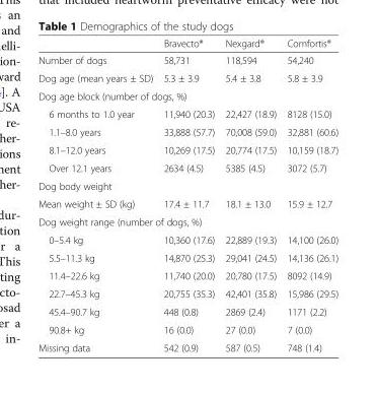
<table><thead><tr><td></td><td>Bravecto®</td><td>Nexgard®</td><td>Comfortis®</td></tr></thead><tbody><tr><td>Number of dogs</td><td>58,731</td><td>118,594</td><td>54,240</td></tr><tr><td>Dog age (mean years ± SD)</td><td>5.3 ± 3.9</td><td>5.4 ± 3.8</td><td>5.8 ± 3.9</td></tr><tr><td colspan="4">Dog age block (number of dogs, %)</td></tr><tr><td>6 months to 1.0 year</td><td>11,940 (20.3)</td><td>22,427 (18.9)</td><td>8128 (15.0)</td></tr><tr><td>1.1–8.0 years</td><td>33,888 (57.7)</td><td>70,008 (59.0)</td><td>32,881 (60.6)</td></tr><tr><td>8.1–12.0 years</td><td>10,269 (17.5)</td><td>20,774 (17.5)</td><td>10,159 (18.7)</td></tr><tr><td>Over 12.1 years</td><td>2634 (4.5)</td><td>5385 (4.5)</td><td>3072 (5.7)</td></tr><tr><td colspan="4">Dog body weight</td></tr><tr><td>Mean weight ± SD (kg)</td><td>17.4 ± 11.7</td><td>18.1 ± 13.0</td><td>15.9 ± 12.7</td></tr><tr><td colspan="4">Dog weight range (number of dogs, %)</td></tr><tr><td>0–5.4 kg</td><td>10,360 (17.6)</td><td>22,889 (19.3)</td><td>14,100 (26.0)</td></tr><tr><td>5.5–11.3 kg</td><td>14,870 (25.3)</td><td>29,041 (24.5)</td><td>14,136 (26.1)</td></tr><tr><td>11.4–22.6 kg</td><td>11,740 (20.0)</td><td>20,780 (17.5)</td><td>8092 (14.9)</td></tr><tr><td>22.7–45.3 kg</td><td>20,755 (35.3)</td><td>42,401 (35.8)</td><td>15,986 (29.5)</td></tr><tr><td>45.4–90.7 kg</td><td>448 (0.8)</td><td>2869 (2.4)</td><td>1171 (2.2)</td></tr><tr><td>90.8+ kg</td><td>16 (0.0)</td><td>27 (0.0)</td><td>7 (0.0)</td></tr><tr><td>Missing data</td><td>542 (0.9)</td><td>587 (0.5)</td><td>748 (1.4)</td></tr></tbody></table>